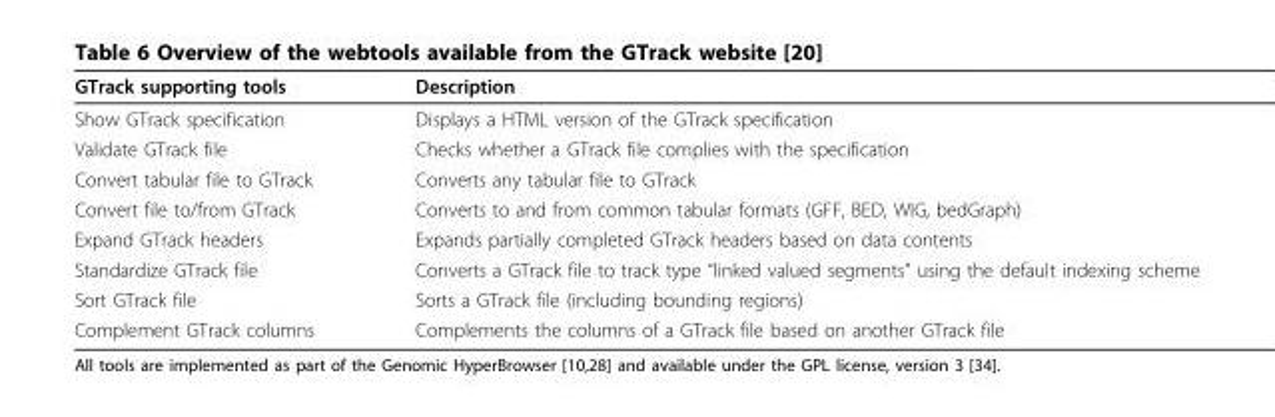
<table><thead><tr><td>GTrack supporting tools</td><td>Description</td></tr></thead><tbody><tr><td>Show GTrack specification</td><td>Displays a HTML version of the GTrack specification</td></tr><tr><td>Validate GTrack file</td><td>Checks whether a GTrack file complies with the specification</td></tr><tr><td>Convert tabular file to GTrack</td><td>Converts any tabular file to GTrack</td></tr><tr><td>Convert file to/from GTrack</td><td>Converts to and from common tabular formats (GFF, BED, WIG, bedGraph)</td></tr><tr><td>Expand GTrack headers</td><td>Expands partially completed GTrack headers based on data contents</td></tr><tr><td>Standardize GTrack file</td><td>Converts a GTrack file to track type “linked valued segments” using the default indexing scheme</td></tr><tr><td>Sort GTrack file</td><td>Sorts a GTrack file (including bounding regions)</td></tr><tr><td>Complement GTrack columns</td><td>Complements the columns of a GTrack file based on another GTrack file</td></tr></tbody></table>